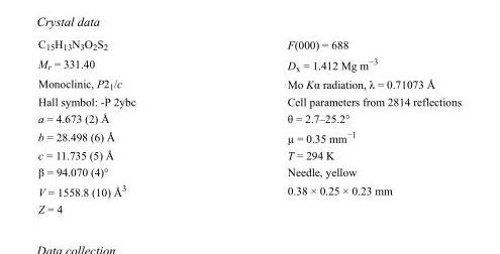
<table><tbody><tr><td>C<sub>15</sub>H<sub>13</sub>N<sub>3</sub>O<sub>2</sub>S<sub>2</sub></td><td>F(000) = 688</td></tr><tr><td>M<sub>r</sub> = 331.40</td><td>D<sub>x</sub> = 1.412 Mg m<sup>−3</sup></td></tr><tr><td>Monoclinic, P2<sub>1</sub>/c</td><td>Mo Kα radiation, λ = 0.71073 Å</td></tr><tr><td>Hall symbol: -P 2ybc</td><td>Cell parameters from 2814 reflections</td></tr><tr><td>a = 4.673 (2) Å</td><td>θ = 2.7–25.2°</td></tr><tr><td>b = 28.498 (6) Å</td><td>µ = 0.35 mm<sup>−1</sup></td></tr><tr><td>c = 11.735 (5) Å</td><td>T = 294 K</td></tr><tr><td>β = 94.070 (4)°</td><td>Needle, yellow</td></tr><tr><td>V = 1558.8 (10) Å<sup>3</sup></td><td>0.38 × 0.25 × 0.23 mm</td></tr><tr><td>Z = 4</td><td></td></tr></tbody></table>